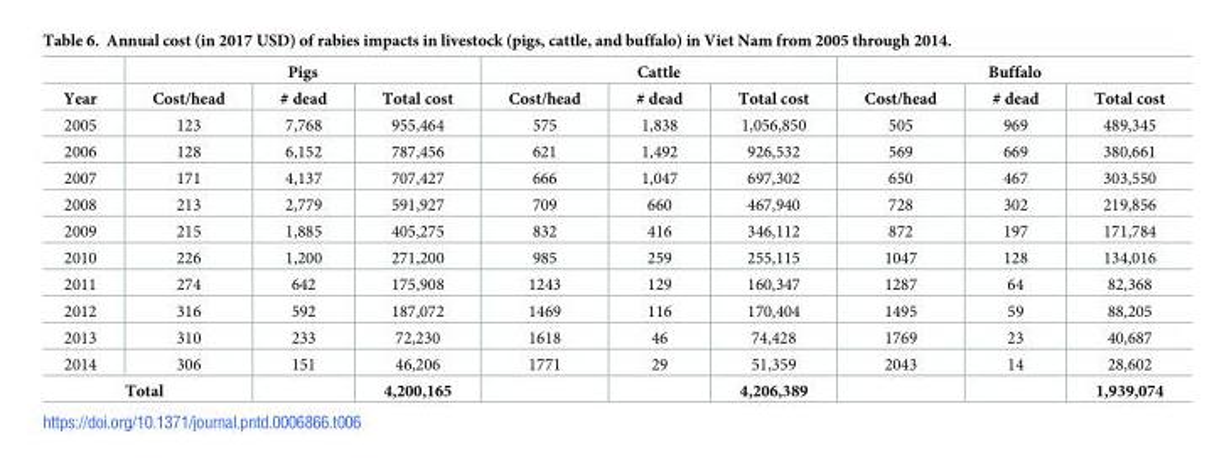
<table><thead><tr><td rowspan="2">Year</td><td colspan="3">Pigs</td><td colspan="3">Cattle</td><td colspan="3">Buffalo</td></tr><tr><td>Cost/head</td><td># dead</td><td>Total cost</td><td>Cost/head</td><td># dead</td><td>Total cost</td><td>Cost/head</td><td># dead</td><td>Total cost</td></tr></thead><tbody><tr><td>2005</td><td>123</td><td>7,768</td><td>955,464</td><td>575</td><td>1,838</td><td>1,056,850</td><td>505</td><td>969</td><td>489,345</td></tr><tr><td>2006</td><td>128</td><td>6,152</td><td>787,456</td><td>621</td><td>1,492</td><td>926,532</td><td>569</td><td>669</td><td>380,661</td></tr><tr><td>2007</td><td>171</td><td>4,137</td><td>707,427</td><td>666</td><td>1,047</td><td>697,302</td><td>650</td><td>467</td><td>303,550</td></tr><tr><td>2008</td><td>213</td><td>2,779</td><td>591,927</td><td>709</td><td>660</td><td>467,940</td><td>728</td><td>302</td><td>219,856</td></tr><tr><td>2009</td><td>215</td><td>1,885</td><td>405,275</td><td>832</td><td>416</td><td>346,112</td><td>872</td><td>197</td><td>171,784</td></tr><tr><td>2010</td><td>226</td><td>1,200</td><td>271,200</td><td>985</td><td>259</td><td>255,115</td><td>1047</td><td>128</td><td>134,016</td></tr><tr><td>2011</td><td>274</td><td>642</td><td>175,908</td><td>1243</td><td>129</td><td>160,347</td><td>1287</td><td>64</td><td>82,368</td></tr><tr><td>2012</td><td>316</td><td>592</td><td>187,072</td><td>1469</td><td>116</td><td>170,404</td><td>1495</td><td>59</td><td>88,205</td></tr><tr><td>2013</td><td>310</td><td>233</td><td>72,230</td><td>1618</td><td>46</td><td>74,428</td><td>1769</td><td>23</td><td>40,687</td></tr><tr><td>2014</td><td>306</td><td>151</td><td>46,206</td><td>1771</td><td>29</td><td>51,359</td><td>2043</td><td>14</td><td>28,602</td></tr><tr><td colspan="2">Total</td><td></td><td>4,200,165</td><td></td><td></td><td>4,206,389</td><td></td><td></td><td>1,939,074</td></tr></tbody></table>